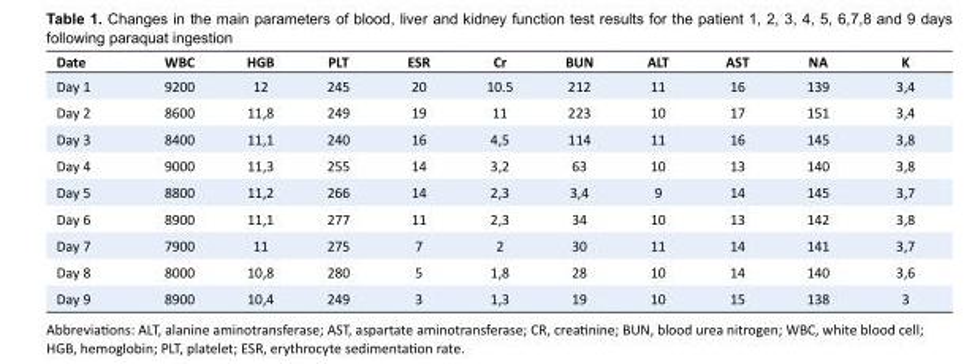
<table><tbody><tr><td>Date</td><td>WBC</td><td>HGB</td><td>PLT</td><td>ESR</td><td>Cr</td><td>BUN</td><td>ALT</td><td>AST</td><td>NA</td><td>K</td></tr><tr><td>Day 1</td><td>9200</td><td>12</td><td>245</td><td>20</td><td>10.5</td><td>212</td><td>11</td><td>16</td><td>139</td><td>3,4</td></tr><tr><td>Day 2</td><td>8600</td><td>11,8</td><td>249</td><td>19</td><td>11</td><td>223</td><td>10</td><td>17</td><td>151</td><td>3,4</td></tr><tr><td>Day 3</td><td>8400</td><td>11,1</td><td>240</td><td>16</td><td>4,5</td><td>114</td><td>11</td><td>16</td><td>145</td><td>3,8</td></tr><tr><td>Day 4</td><td>9000</td><td>11,3</td><td>255</td><td>14</td><td>3,2</td><td>63</td><td>10</td><td>13</td><td>140</td><td>3,8</td></tr><tr><td>Day 5</td><td>8800</td><td>11,2</td><td>266</td><td>14</td><td>2,3</td><td>3,4</td><td>9</td><td>14</td><td>145</td><td>3,7</td></tr><tr><td>Day 6</td><td>8900</td><td>11,1</td><td>277</td><td>11</td><td>2,3</td><td>34</td><td>10</td><td>13</td><td>142</td><td>3,8</td></tr><tr><td>Day 7</td><td>7900</td><td>11</td><td>275</td><td>7</td><td>2</td><td>30</td><td>11</td><td>14</td><td>141</td><td>3,7</td></tr><tr><td>Day 8</td><td>8000</td><td>10,8</td><td>280</td><td>5</td><td>1,8</td><td>28</td><td>10</td><td>14</td><td>140</td><td>3,6</td></tr><tr><td>Day 9</td><td>8900</td><td>10,4</td><td>249</td><td>3</td><td>1,3</td><td>19</td><td>10</td><td>15</td><td>138</td><td>3</td></tr></tbody></table>